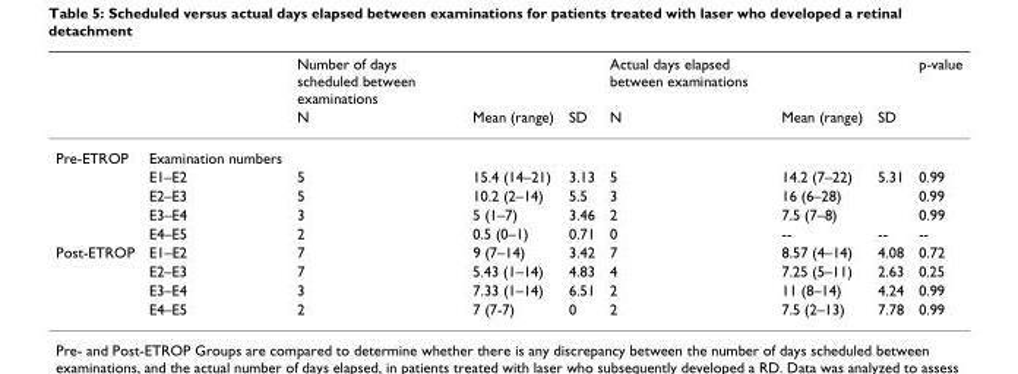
<table><thead><tr><td rowspan="2"></td><td rowspan="2"></td><td rowspan="2">Number of days scheduled between examinations N</td><td rowspan="2">Mean (range)</td><td rowspan="2">SD</td><td rowspan="2">Actual days elapsed between examinations N</td><td rowspan="2">Mean (range)</td><td rowspan="2">SD</td><td rowspan="2">p-value</td></tr><tr></tr></thead><tbody><tr><td rowspan="5">Pre-ETROP</td><td>Examination numbers</td><td></td><td></td><td></td><td></td><td></td><td></td><td></td></tr><tr><td>E1–E2</td><td>5</td><td>15.4 (14–21)</td><td>3.13</td><td>5</td><td>14.2 (7–22)</td><td>5.31</td><td>0.99</td></tr><tr><td>E2–E3</td><td>5</td><td>10.2 (2–14)</td><td>5.5</td><td>3</td><td>16 (6–28)</td><td></td><td>0.99</td></tr><tr><td>E3–E4</td><td>3</td><td>5 (1–7)</td><td>3.46</td><td>2</td><td>7.5 (7–8)</td><td></td><td>0.99</td></tr><tr><td>E4–E5</td><td>2</td><td>0.5 (0–1)</td><td>0.71</td><td>0</td><td>--</td><td>--</td><td>--</td></tr><tr><td rowspan="4">Post-ETROP</td><td>E1–E2</td><td>7</td><td>9 (7–14)</td><td>3.42</td><td>7</td><td>8.57 (4–14)</td><td>4.08</td><td>0.72</td></tr><tr><td>E2–E3</td><td>7</td><td>5.43 (1–14)</td><td>4.83</td><td>4</td><td>7.25 (5–11)</td><td>2.63</td><td>0.25</td></tr><tr><td>E3–E4</td><td>3</td><td>7.33 (1–14)</td><td>6.51</td><td>2</td><td>11 (8–14)</td><td>4.24</td><td>0.99</td></tr><tr><td>E4–E5</td><td>2</td><td>7 (7-7)</td><td>0</td><td>2</td><td>7.5 (2–13)</td><td>7.78</td><td>0.99</td></tr></tbody></table>